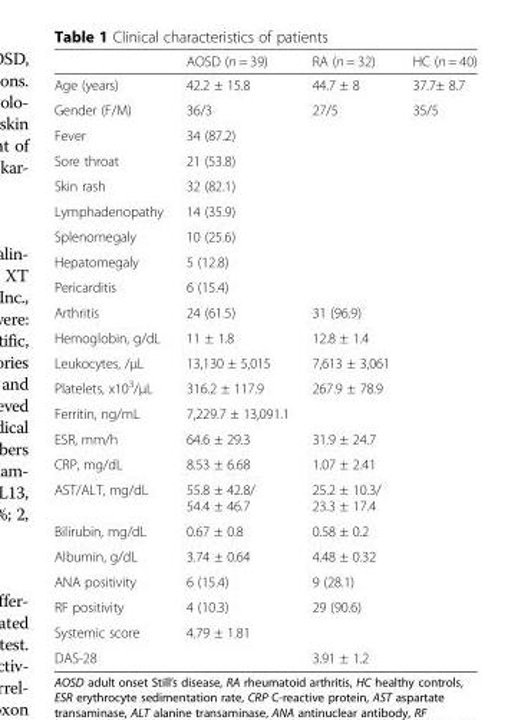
<table><thead><tr><td></td><td>AOSD (n = 39)</td><td>RA (n = 32)</td><td>HC (n = 40)</td></tr></thead><tbody><tr><td>Age (years)</td><td>42.2 ± 15.8</td><td>44.7 ± 8</td><td>37.7± 8.7</td></tr><tr><td>Gender (F/M)</td><td>36/3</td><td>27/5</td><td>35/5</td></tr><tr><td>Fever</td><td>34 (87.2)</td><td></td><td></td></tr><tr><td>Sore throat</td><td>21 (53.8)</td><td></td><td></td></tr><tr><td>Skin rash</td><td>32 (82.1)</td><td></td><td></td></tr><tr><td>Lymphadenopathy</td><td>14 (35.9)</td><td></td><td></td></tr><tr><td>Splenomegaly</td><td>10 (25.6)</td><td></td><td></td></tr><tr><td>Hepatomegaly</td><td>5 (12.8)</td><td></td><td></td></tr><tr><td>Pericarditis</td><td>6 (15.4)</td><td></td><td></td></tr><tr><td>Arthritis</td><td>24 (61.5)</td><td>31 (96.9)</td><td></td></tr><tr><td>Hemoglobin, g/dL</td><td>11 ± 1.8</td><td>12.8 ± 1.4</td><td></td></tr><tr><td>Leukocytes, /μL</td><td>13,130 ± 5,015</td><td>7,613 ± 3,061</td><td></td></tr><tr><td>Platelets, x10<sup>3</sup>/μL</td><td>316.2 ± 117.9</td><td>267.9 ± 78.9</td><td></td></tr><tr><td>Ferritin, ng/mL</td><td>7,229.7 ± 13,091.1</td><td></td><td></td></tr><tr><td>ESR, mm/h</td><td>64.6 ± 29.3</td><td>31.9 ± 24.7</td><td></td></tr><tr><td>CRP, mg/dL</td><td>8.53 ± 6.68</td><td>1.07 ± 2.41</td><td></td></tr><tr><td>AST/ALT, mg/dL</td><td>55.8 ± 42.8/ 54.4 ± 46.7</td><td>25.2 ± 10.3/ 23.3 ± 17.4</td><td></td></tr><tr><td>Bilirubin, mg/dL</td><td>0.67 ± 0.8</td><td>0.58 ± 0.2</td><td></td></tr><tr><td>Albumin, g/dL</td><td>3.74 ± 0.64</td><td>4.48 ± 0.32</td><td></td></tr><tr><td>ANA positivity</td><td>6 (15.4)</td><td>9 (28.1)</td><td></td></tr><tr><td>RF positivity</td><td>4 (10.3)</td><td>29 (90.6)</td><td></td></tr><tr><td>Systemic score</td><td>4.79 ± 1.81</td><td></td><td></td></tr><tr><td>DAS-28</td><td></td><td>3.91 ± 1.2</td><td></td></tr></tbody></table>